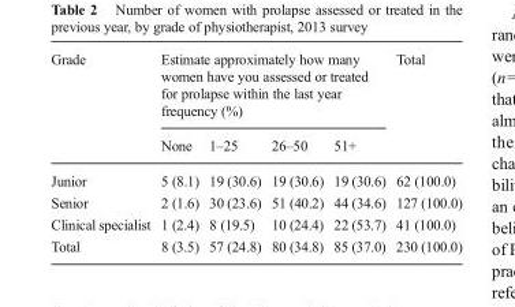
<table><thead><tr><td rowspan="2">Grade</td><td colspan="4">Estimate approximately how many women have you assessed or treated for prolapse within the last year frequency (%)</td><td rowspan="2">Total</td></tr><tr><td>None</td><td>1–25</td><td>26–50</td><td>51+</td></tr></thead><tbody><tr><td>Junior</td><td>5 (8.1)</td><td>19 (30.6)</td><td>19 (30.6)</td><td>19 (30.6)</td><td>62 (100.0)</td></tr><tr><td>Senior</td><td>2 (1.6)</td><td>30 (23.6)</td><td>51 (40.2)</td><td>44 (34.6)</td><td>127 (100.0)</td></tr><tr><td>Clinical specialist</td><td>1 (2.4)</td><td>8 (19.5)</td><td>10 (24.4)</td><td>22 (53.7)</td><td>41 (100.0)</td></tr><tr><td>Total</td><td>8 (3.5)</td><td>57 (24.8)</td><td>80 (34.8)</td><td>85 (37.0)</td><td>230 (100.0)</td></tr></tbody></table>